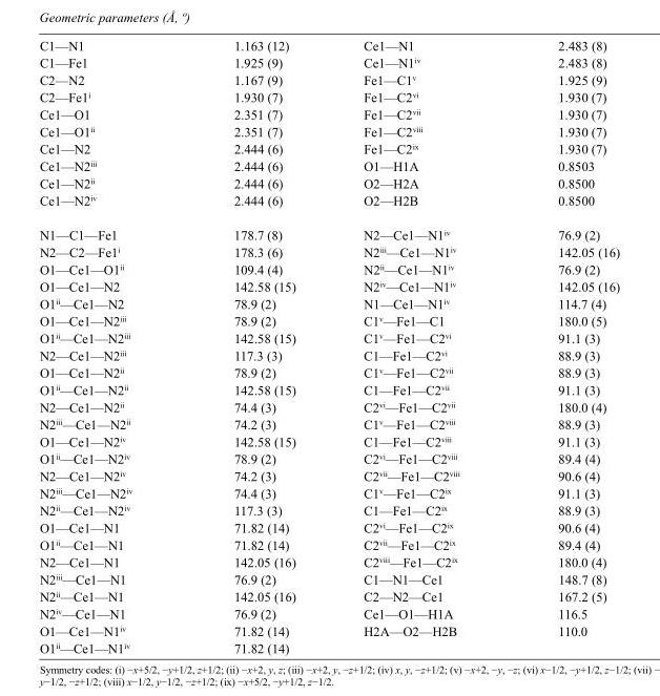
<table><tbody><tr><td>C1—N1</td><td>1.163 (12)</td><td>Ce1—N1</td><td>2.483 (8)</td></tr><tr><td>C1—Fe1</td><td>1.925 (9)</td><td>Ce1—N1<sup>iv</sup></td><td>2.483 (8)</td></tr><tr><td>C2—N2</td><td>1.167 (9)</td><td>Fe1—C1<sup>v</sup></td><td>1.925 (9)</td></tr><tr><td>C2—Fe1<sup>i</sup></td><td>1.930 (7)</td><td>Fe1—C2<sup>vi</sup></td><td>1.930 (7)</td></tr><tr><td>Ce1—O1</td><td>2.351 (7)</td><td>Fe1—C2<sup>vii</sup></td><td>1.930 (7)</td></tr><tr><td>Ce1—O1<sup>ii</sup></td><td>2.351 (7)</td><td>Fe1—C2<sup>viii</sup></td><td>1.930 (7)</td></tr><tr><td>Ce1—N2</td><td>2.444 (6)</td><td>Fe1—C2<sup>ix</sup></td><td>1.930 (7)</td></tr><tr><td>Ce1—N2<sup>iii</sup></td><td>2.444 (6)</td><td>O1—H1A</td><td>0.8503</td></tr><tr><td>Ce1—N2<sup>ii</sup></td><td>2.444 (6)</td><td>O2—H2A</td><td>0.8500</td></tr><tr><td>Ce1—N2<sup>iv</sup></td><td>2.444 (6)</td><td>O2—H2B</td><td>0.8500</td></tr><tr><td>N1—C1—Fe1</td><td>178.7 (8)</td><td>N2—Ce1—N1<sup>iv</sup></td><td>76.9 (2)</td></tr><tr><td>N2—C2—Fe1<sup>i</sup></td><td>178.3 (6)</td><td>N2<sup>iii</sup>—Ce1—N1<sup>iv</sup></td><td>142.05 (16)</td></tr><tr><td>O1—Ce1—O1<sup>ii</sup></td><td>109.4 (4)</td><td>N2<sup>ii</sup>—Ce1—N1<sup>iv</sup></td><td>76.9 (2)</td></tr><tr><td>O1—Ce1—N2</td><td>142.58 (15)</td><td>N2<sup>iv</sup>—Ce1—N1<sup>iv</sup></td><td>142.05 (16)</td></tr><tr><td>O1<sup>ii</sup>—Ce1—N2</td><td>78.9 (2)</td><td>N1—Ce1—N1<sup>iv</sup></td><td>114.7 (4)</td></tr><tr><td>O1—Ce1—N2<sup>iii</sup></td><td>78.9 (2)</td><td>C1<sup>v</sup>—Fe1—C1</td><td>180.0 (5)</td></tr><tr><td>O1<sup>ii</sup>—Ce1—N2<sup>iii</sup></td><td>142.58 (15)</td><td>C1<sup>v</sup>—Fe1—C2<sup>vi</sup></td><td>91.1 (3)</td></tr><tr><td>N2—Ce1—N2<sup>iii</sup></td><td>117.3 (3)</td><td>C1—Fe1—C2<sup>vi</sup></td><td>88.9 (3)</td></tr><tr><td>O1—Ce1—N2<sup>ii</sup></td><td>78.9 (2)</td><td>C1<sup>v</sup>—Fe1—C2<sup>vii</sup></td><td>88.9 (3)</td></tr><tr><td>O1<sup>ii</sup>—Ce1—N2<sup>ii</sup></td><td>142.58 (15)</td><td>C1—Fe1—C2<sup>vii</sup></td><td>91.1 (3)</td></tr><tr><td>N2—Ce1—N2<sup>ii</sup></td><td>74.4 (3)</td><td>C2<sup>vi</sup>—Fe1—C2<sup>vii</sup></td><td>180.0 (4)</td></tr><tr><td>N2<sup>iii</sup>—Ce1—N2<sup>ii</sup></td><td>74.2 (3)</td><td>C1<sup>v</sup>—Fe1—C2<sup>viii</sup></td><td>88.9 (3)</td></tr><tr><td>O1—Ce1—N2<sup>iv</sup></td><td>142.58 (15)</td><td>C1—Fe1—C2<sup>viii</sup></td><td>91.1 (3)</td></tr><tr><td>O1<sup>ii</sup>—Ce1—N2<sup>iv</sup></td><td>78.9 (2)</td><td>C2<sup>vi</sup>—Fe1—C2<sup>viii</sup></td><td>89.4 (4)</td></tr><tr><td>N2—Ce1—N2<sup>iv</sup></td><td>74.2 (3)</td><td>C2<sup>vii</sup>—Fe1—C2<sup>viii</sup></td><td>90.6 (4)</td></tr><tr><td>N2<sup>iii</sup>—Ce1—N2<sup>iv</sup></td><td>74.4 (3)</td><td>C1<sup>v</sup>—Fe1—C2<sup>ix</sup></td><td>91.1 (3)</td></tr><tr><td>N2<sup>ii</sup>—Ce1—N2<sup>iv</sup></td><td>117.3 (3)</td><td>C1—Fe1—C2<sup>ix</sup></td><td>88.9 (3)</td></tr><tr><td>O1—Ce1—N1</td><td>71.82 (14)</td><td>C2<sup>vi</sup>—Fe1—C2<sup>ix</sup></td><td>90.6 (4)</td></tr><tr><td>O1<sup>ii</sup>—Ce1—N1</td><td>71.82 (14)</td><td>C2<sup>vii</sup>—Fe1—C2<sup>ix</sup></td><td>89.4 (4)</td></tr><tr><td>N2—Ce1—N1</td><td>142.05 (16)</td><td>C2<sup>viii</sup>—Fe1—C2<sup>ix</sup></td><td>180.0 (4)</td></tr><tr><td>N2<sup>iii</sup>—Ce1—N1</td><td>76.9 (2)</td><td>C1—N1—Ce1</td><td>148.7 (8)</td></tr><tr><td>N2<sup>ii</sup>—Ce1—N1</td><td>142.05 (16)</td><td>C2—N2—Ce1</td><td>167.2 (5)</td></tr><tr><td>N2<sup>iv</sup>—Ce1—N1</td><td>76.9 (2)</td><td>Ce1—O1—H1A</td><td>116.5</td></tr><tr><td>O1—Ce1—N1<sup>iv</sup></td><td>71.82 (14)</td><td>H2A—O2—H2B</td><td>110.0</td></tr><tr><td>O1<sup>ii</sup>—Ce1—N1<sup>iv</sup></td><td>71.82 (14)</td><td></td><td></td></tr></tbody></table>